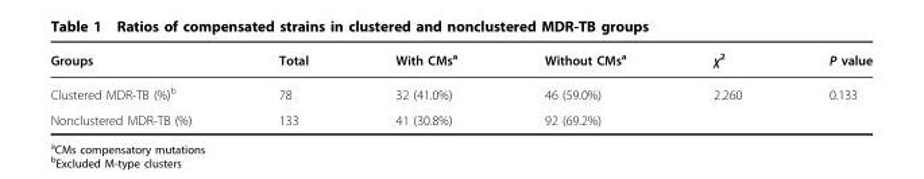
<table><thead><tr><td>Groups</td><td>Total</td><td>With CMs<sup>a</sup></td><td>Without CMs<sup>a</sup></td><td>χ<sup>2</sup></td><td>P value</td></tr></thead><tbody><tr><td>Clustered MDR-TB (%)<sup>b</sup></td><td>78</td><td>32 (41.0%)</td><td>46 (59.0%)</td><td rowspan="2">2.260</td><td rowspan="2">0.133</td></tr><tr><td>Nonclustered MDR-TB (%)</td><td>133</td><td>41 (30.8%)</td><td>92 (69.2%)</td></tr></tbody></table>